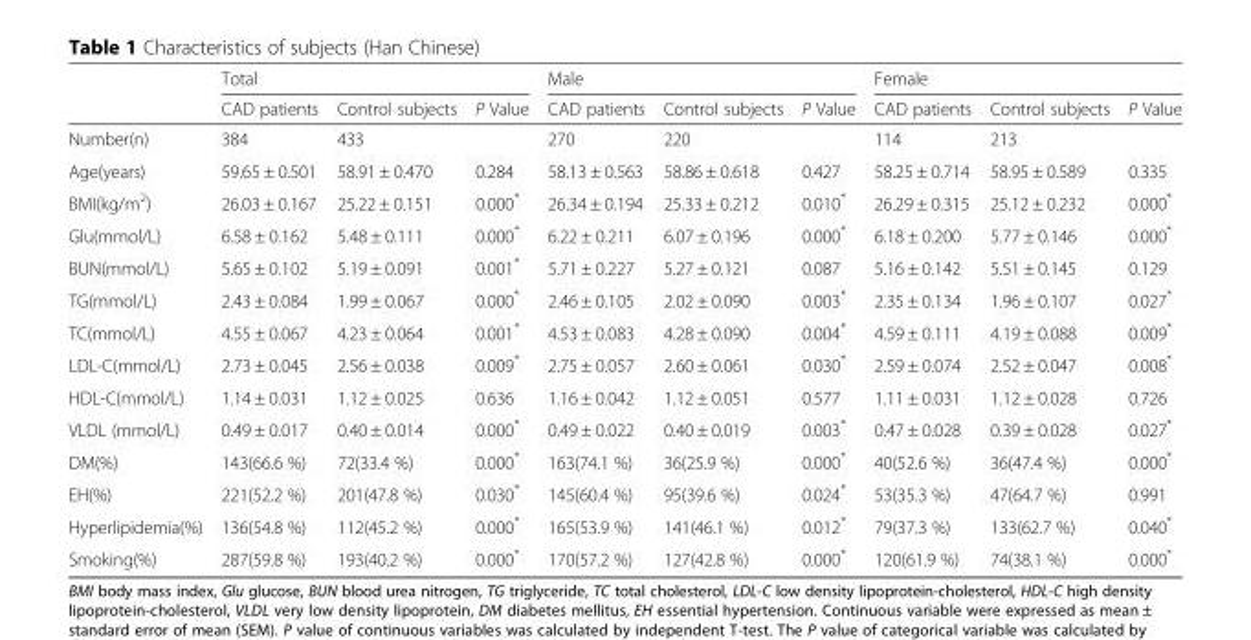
<table><thead><tr><td rowspan="2"></td><td colspan="3">Total</td><td colspan="3">Male</td><td colspan="3">Female</td></tr><tr><td>CAD patients</td><td>Control subjects</td><td>P Value</td><td>CAD patients</td><td>Control subjects</td><td>P Value</td><td>CAD patients</td><td>Control subjects</td><td>P Value</td></tr></thead><tbody><tr><td>Number(n)</td><td>384</td><td>433</td><td></td><td>270</td><td>220</td><td></td><td>114</td><td>213</td><td></td></tr><tr><td>Age(years)</td><td>59.65 ± 0.501</td><td>58.91 ± 0.470</td><td>0.284</td><td>58.13 ± 0.563</td><td>58.86 ± 0.618</td><td>0.427</td><td>58.25 ± 0.714</td><td>58.95 ± 0.589</td><td>0.335</td></tr><tr><td>BMI(kg/m<sup>2</sup>)</td><td>26.03 ± 0.167</td><td>25.22 ± 0.151</td><td>0.000*</td><td>26.34 ± 0.194</td><td>25.33 ± 0.212</td><td>0.010*</td><td>26.29 ± 0.315</td><td>25.12 ± 0.232</td><td>0.000*</td></tr><tr><td>Glu(mmol/L)</td><td>6.58 ± 0.162</td><td>5.48 ± 0.111</td><td>0.000*</td><td>6.22 ± 0.211</td><td>6.07 ± 0.196</td><td>0.000*</td><td>6.18 ± 0.200</td><td>5.77 ± 0.146</td><td>0.000*</td></tr><tr><td>BUN(mmol/L)</td><td>5.65 ± 0.102</td><td>5.19 ± 0.091</td><td>0.001*</td><td>5.71 ± 0.227</td><td>5.27 ± 0.121</td><td>0.087</td><td>5.16 ± 0.142</td><td>5.51 ± 0.145</td><td>0.129</td></tr><tr><td>TG(mmol/L)</td><td>2.43 ± 0.084</td><td>1.99 ± 0.067</td><td>0.000*</td><td>2.46 ± 0.105</td><td>2.02 ± 0.090</td><td>0.003*</td><td>2.35 ± 0.134</td><td>1.96 ± 0.107</td><td>0.027*</td></tr><tr><td>TC(mmol/L)</td><td>4.55 ± 0.067</td><td>4.23 ± 0.064</td><td>0.001*</td><td>4.53 ± 0.083</td><td>4.28 ± 0.090</td><td>0.004*</td><td>4.59 ± 0.111</td><td>4.19 ± 0.088</td><td>0.009*</td></tr><tr><td>LDL-C(mmol/L)</td><td>2.73 ± 0.045</td><td>2.56 ± 0.038</td><td>0.009*</td><td>2.75 ± 0.057</td><td>2.60 ± 0.061</td><td>0.030*</td><td>2.59 ± 0.074</td><td>2.52 ± 0.047</td><td>0.008*</td></tr><tr><td>HDL-C(mmol/L)</td><td>1.14 ± 0.031</td><td>1.12 ± 0.025</td><td>0.636</td><td>1.16 ± 0.042</td><td>1.12 ± 0.051</td><td>0.577</td><td>1.11 ± 0.031</td><td>1.12 ± 0.028</td><td>0.726</td></tr><tr><td>VLDL (mmol/L)</td><td>0.49 ± 0.017</td><td>0.40 ± 0.014</td><td>0.000*</td><td>0.49 ± 0.022</td><td>0.40 ± 0.019</td><td>0.003*</td><td>0.47 ± 0.028</td><td>0.39 ± 0.028</td><td>0.027*</td></tr><tr><td>DM(%)</td><td>143(66.6 %)</td><td>72(33.4 %)</td><td>0.000*</td><td>163(74.1 %)</td><td>36(25.9 %)</td><td>0.000*</td><td>40(52.6 %)</td><td>36(47.4 %)</td><td>0.000*</td></tr><tr><td>EH(%)</td><td>221(52.2 %)</td><td>201(47.8 %)</td><td>0.030*</td><td>145(60.4 %)</td><td>95(39.6 %)</td><td>0.024*</td><td>53(35.3 %)</td><td>47(64.7 %)</td><td>0.991</td></tr><tr><td>Hyperlipidemia(%)</td><td>136(54.8 %)</td><td>112(45.2 %)</td><td>0.000*</td><td>165(53.9 %)</td><td>141(46.1 %)</td><td>0.012*</td><td>79(37.3 %)</td><td>133(62.7 %)</td><td>0.040*</td></tr><tr><td>Smoking(%)</td><td>287(59.8 %)</td><td>193(40.2 %)</td><td>0.000*</td><td>170(57.2 %)</td><td>127(42.8 %)</td><td>0.000*</td><td>120(61.9 %)</td><td>74(38.1 %)</td><td>0.000*</td></tr></tbody></table>